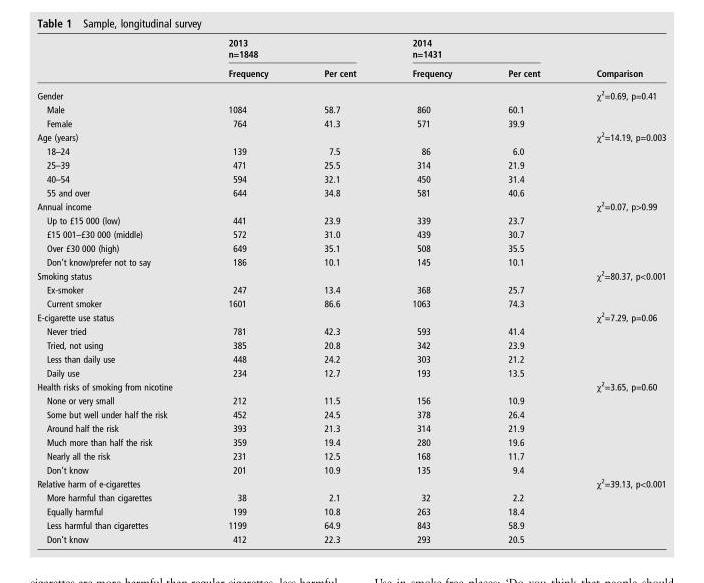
<table><thead><tr><td rowspan="2"></td><td colspan="2">2013 n=1848</td><td colspan="2">2014 n=1431</td><td rowspan="2">Comparison</td></tr><tr><td>Frequency</td><td>Per cent</td><td>Frequency</td><td>Per cent</td></tr></thead><tbody><tr><td colspan="5">Gender</td><td rowspan="3">χ<sup>2</sup>=0.69, p=0.41</td></tr><tr><td>Male</td><td>1084</td><td>58.7</td><td>860</td><td>60.1</td></tr><tr><td>Female</td><td>764</td><td>41.3</td><td>571</td><td>39.9</td></tr><tr><td colspan="5">Age (years)</td><td rowspan="5">χ<sup>2</sup>=14.19, p=0.003</td></tr><tr><td>18–24</td><td>139</td><td>7.5</td><td>86</td><td>6.0</td></tr><tr><td>25–39</td><td>471</td><td>25.5</td><td>314</td><td>21.9</td></tr><tr><td>40–54</td><td>594</td><td>32.1</td><td>450</td><td>31.4</td></tr><tr><td>55 and over</td><td>644</td><td>34.8</td><td>581</td><td>40.6</td></tr><tr><td colspan="5">Annual income</td><td rowspan="5">χ<sup>2</sup>=0.07, p&gt;0.99</td></tr><tr><td>Up to £15 000 (low)</td><td>441</td><td>23.9</td><td>339</td><td>23.7</td></tr><tr><td>£15 001–£30 000 (middle)</td><td>572</td><td>31.0</td><td>439</td><td>30.7</td></tr><tr><td>Over £30 000 (high)</td><td>649</td><td>35.1</td><td>508</td><td>35.5</td></tr><tr><td>Don’t know/prefer not to say</td><td>186</td><td>10.1</td><td>145</td><td>10.1</td></tr><tr><td colspan="5">Smoking status</td><td rowspan="3">χ<sup>2</sup>=80.37, p&lt;0.001</td></tr><tr><td>Ex-smoker</td><td>247</td><td>13.4</td><td>368</td><td>25.7</td></tr><tr><td>Current smoker</td><td>1601</td><td>86.6</td><td>1063</td><td>74.3</td></tr><tr><td colspan="5">E-cigarette use status</td><td rowspan="5">χ<sup>2</sup>=7.29, p=0.06</td></tr><tr><td>Never tried</td><td>781</td><td>42.3</td><td>593</td><td>41.4</td></tr><tr><td>Tried, not using</td><td>385</td><td>20.8</td><td>342</td><td>23.9</td></tr><tr><td>Less than daily use</td><td>448</td><td>24.2</td><td>303</td><td>21.2</td></tr><tr><td>Daily use</td><td>234</td><td>12.7</td><td>193</td><td>13.5</td></tr><tr><td colspan="5">Health risks of smoking from nicotine</td><td rowspan="7">χ<sup>2</sup>=3.65, p=0.60</td></tr><tr><td>None or very small</td><td>212</td><td>11.5</td><td>156</td><td>10.9</td></tr><tr><td>Some but well under half the risk</td><td>452</td><td>24.5</td><td>378</td><td>26.4</td></tr><tr><td>Around half the risk</td><td>393</td><td>21.3</td><td>314</td><td>21.9</td></tr><tr><td>Much more than half the risk</td><td>359</td><td>19.4</td><td>280</td><td>19.6</td></tr><tr><td>Nearly all the risk</td><td>231</td><td>12.5</td><td>168</td><td>11.7</td></tr><tr><td>Don’t know</td><td>201</td><td>10.9</td><td>135</td><td>9.4</td></tr><tr><td colspan="5">Relative harm of e-cigarettes</td><td rowspan="5">χ<sup>2</sup>=39.13, p&lt;0.001</td></tr><tr><td>More harmful than cigarettes</td><td>38</td><td>2.1</td><td>32</td><td>2.2</td></tr><tr><td>Equally harmful</td><td>199</td><td>10.8</td><td>263</td><td>18.4</td></tr><tr><td>Less harmful than cigarettes</td><td>1199</td><td>64.9</td><td>843</td><td>58.9</td></tr><tr><td>Don’t know</td><td>412</td><td>22.3</td><td>293</td><td>20.5</td></tr></tbody></table>